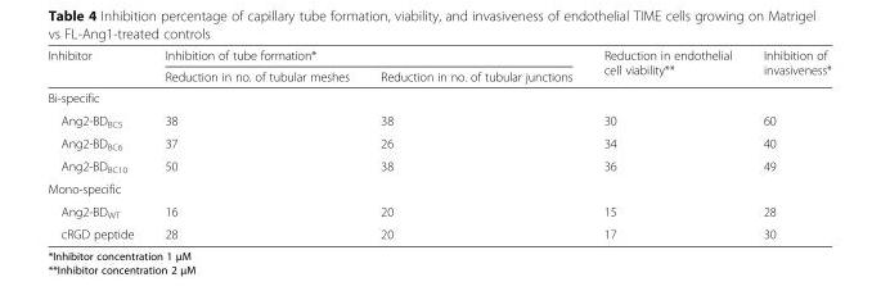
<table><thead><tr><td rowspan="2">Inhibitor</td><td colspan="2">Inhibition of tube formation*</td><td rowspan="2">Reduction in endothelial cell viability**</td><td rowspan="2">Inhibition of invasiveness*</td></tr><tr><td>Reduction in no. of tubular meshes</td><td>Reduction in no. of tubular junctions</td></tr></thead><tbody><tr><td colspan="5">Bi-specific</td></tr><tr><td>Ang2-BD<sub>BC5</sub></td><td>38</td><td>38</td><td>30</td><td>60</td></tr><tr><td>Ang2-BD<sub>BC6</sub></td><td>37</td><td>26</td><td>34</td><td>40</td></tr><tr><td>Ang2-BD<sub>BC10</sub></td><td>50</td><td>38</td><td>36</td><td>49</td></tr><tr><td colspan="5">Mono-specific</td></tr><tr><td>Ang2-BD<sub>WT</sub></td><td>16</td><td>20</td><td>15</td><td>28</td></tr><tr><td>cRGD peptide</td><td>28</td><td>20</td><td>17</td><td>30</td></tr></tbody></table>